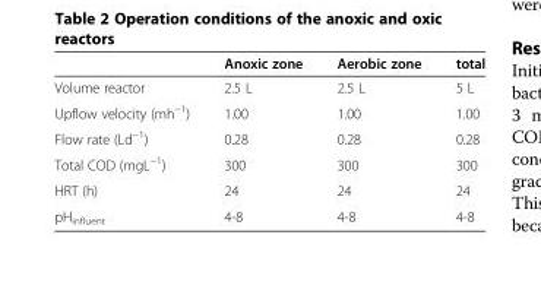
<table><thead><tr><td></td><td>Anoxic zone</td><td>Aerobic zone</td><td>total</td></tr></thead><tbody><tr><td>Volume reactor</td><td>2.5 L</td><td>2.5 L</td><td>5 L</td></tr><tr><td>Upflow velocity (mh<sup>−1</sup>)</td><td>1.00</td><td>1.00</td><td>1.00</td></tr><tr><td>Flow rate (Ld<sup>−1</sup>)</td><td>0.28</td><td>0.28</td><td>0.28</td></tr><tr><td>Total COD (mgL<sup>−1</sup>)</td><td>300</td><td>300</td><td>300</td></tr><tr><td>HRT (h)</td><td>24</td><td>24</td><td>24</td></tr><tr><td>pH<sub>influent</sub></td><td>4-8</td><td>4-8</td><td>4-8</td></tr></tbody></table>